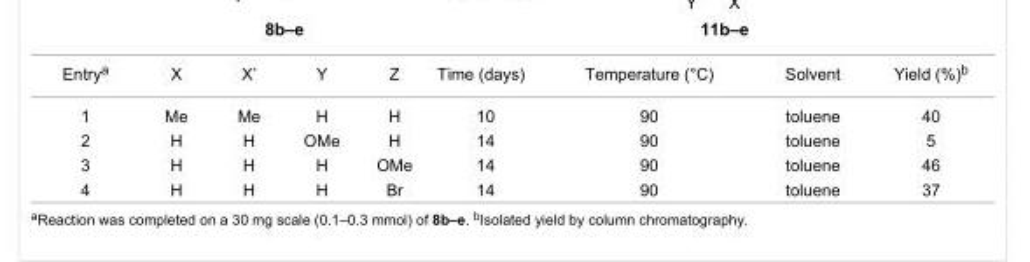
<table><tbody><tr><td>Entry<sup>a</sup></td><td>X</td><td>X’</td><td>Y</td><td>Z</td><td>Time (days)</td><td>Temperature (°C)</td><td>Solvent</td><td>Yield (%)<sup>b</sup></td></tr><tr><td>1</td><td>Me</td><td>Me</td><td>H</td><td>H</td><td>10</td><td>90</td><td>toluene</td><td>40</td></tr><tr><td>2</td><td>H</td><td>H</td><td>OMe</td><td>H</td><td>14</td><td>90</td><td>toluene</td><td>5</td></tr><tr><td>3</td><td>H</td><td>H</td><td>H</td><td>OMe</td><td>14</td><td>90</td><td>toluene</td><td>46</td></tr><tr><td>4</td><td>H</td><td>H</td><td>H</td><td>Br</td><td>14</td><td>90</td><td>toluene</td><td>37</td></tr></tbody></table>